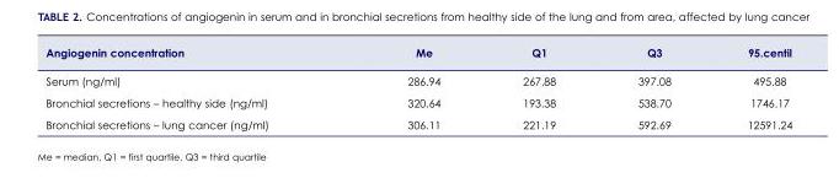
<table><thead><tr><td>Angiogenin concentration</td><td>Me</td><td>Q1</td><td>Q3</td><td>95.centil</td></tr></thead><tbody><tr><td>Serum (ng/ml)</td><td>286.94</td><td>267.88</td><td>397.08</td><td>495.88</td></tr><tr><td>Bronchial secretions – healthy side (ng/ml)</td><td>320.64</td><td>193.38</td><td>538.70</td><td>1746.17</td></tr><tr><td>Bronchial secretions – lung cancer (ng/ml)</td><td>306.11</td><td>221.19</td><td>592.69</td><td>12591.24</td></tr></tbody></table>